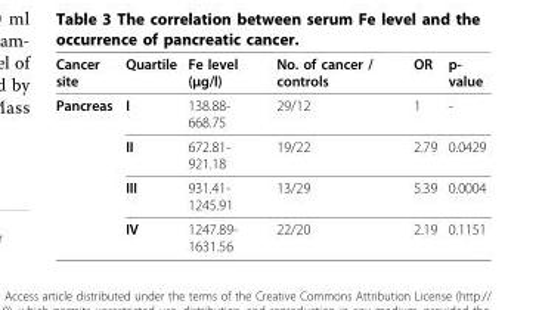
<table><thead><tr><td>Cancer site</td><td>Quartile</td><td>Fe level (µg/l)</td><td>No. of cancer / controls</td><td>OR</td><td>p- value</td></tr></thead><tbody><tr><td rowspan="4">Pancreas</td><td>I</td><td>138.88- 668.75</td><td>29/12</td><td>1</td><td>-</td></tr><tr><td>II</td><td>672.81- 921.18</td><td>19/22</td><td>2.79</td><td>0.0429</td></tr><tr><td>III</td><td>931.41- 1245.91</td><td>13/29</td><td>5.39</td><td>0.0004</td></tr><tr><td>IV</td><td>1247.89- 1631.56</td><td>22/20</td><td>2.19</td><td>0.1151</td></tr></tbody></table>